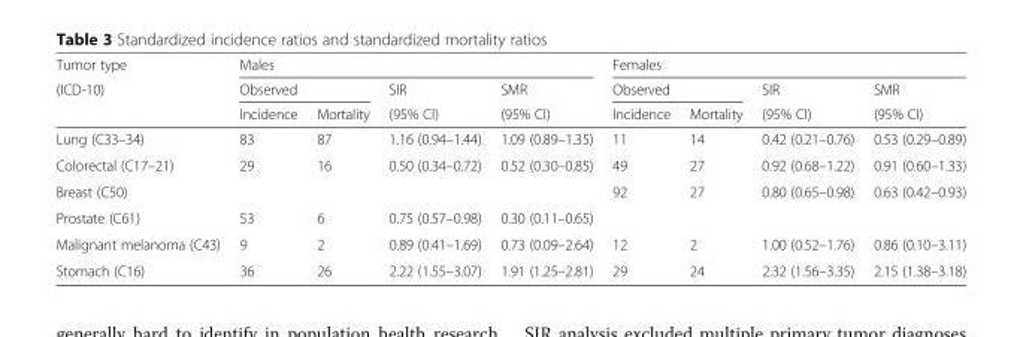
<table><thead><tr><td rowspan="3">Tumor type (ICD-10)</td><td colspan="4">Males</td><td colspan="4">Females</td></tr><tr><td colspan="2">Observed</td><td rowspan="2">SIR (95% CI)</td><td rowspan="2">SMR (95% CI)</td><td colspan="2">Observed</td><td rowspan="2">SIR (95% CI)</td><td rowspan="2">SMR (95% CI)</td></tr><tr><td>Incidence</td><td>Mortality</td><td>Incidence</td><td>Mortality</td></tr></thead><tbody><tr><td>Lung (C33–34)</td><td>83</td><td>87</td><td>1.16 (0.94–1.44)</td><td>1.09 (0.89–1.35)</td><td>11</td><td>14</td><td>0.42 (0.21–0.76)</td><td>0.53 (0.29–0.89)</td></tr><tr><td>Colorectal (C17–21)</td><td>29</td><td>16</td><td>0.50 (0.34–0.72)</td><td>0.52 (0.30–0.85)</td><td>49</td><td>27</td><td>0.92 (0.68–1.22)</td><td>0.91 (0.60–1.33)</td></tr><tr><td>Breast (C50)</td><td></td><td></td><td></td><td></td><td>92</td><td>27</td><td>0.80 (0.65–0.98)</td><td>0.63 (0.42–0.93)</td></tr><tr><td>Prostate (C61)</td><td>53</td><td>6</td><td>0.75 (0.57–0.98)</td><td>0.30 (0.11–0.65)</td><td></td><td></td><td></td><td></td></tr><tr><td>Malignant melanoma (C43)</td><td>9</td><td>2</td><td>0.89 (0.41–1.69)</td><td>0.73 (0.09–2.64)</td><td>12</td><td>2</td><td>1.00 (0.52–1.76)</td><td>0.86 (0.10–3.11)</td></tr><tr><td>Stomach (C16)</td><td>36</td><td>26</td><td>2.22 (1.55–3.07)</td><td>1.91 (1.25–2.81)</td><td>29</td><td>24</td><td>2.32 (1.56–3.35)</td><td>2.15 (1.38–3.18)</td></tr></tbody></table>